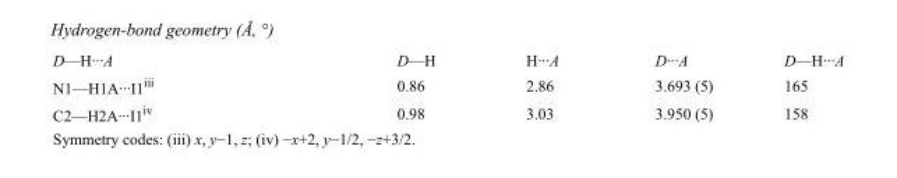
<table><tbody><tr><td>D—H···A</td><td>D—H</td><td>H···A</td><td>D···A</td><td>D—H···A</td></tr><tr><td>N1—H1A···I1<sup>iii</sup></td><td>0.86</td><td>2.86</td><td>3.693 (5)</td><td>165</td></tr><tr><td>C2—H2A···I1<sup>iv</sup></td><td>0.98</td><td>3.03</td><td>3.950 (5)</td><td>158</td></tr></tbody></table>